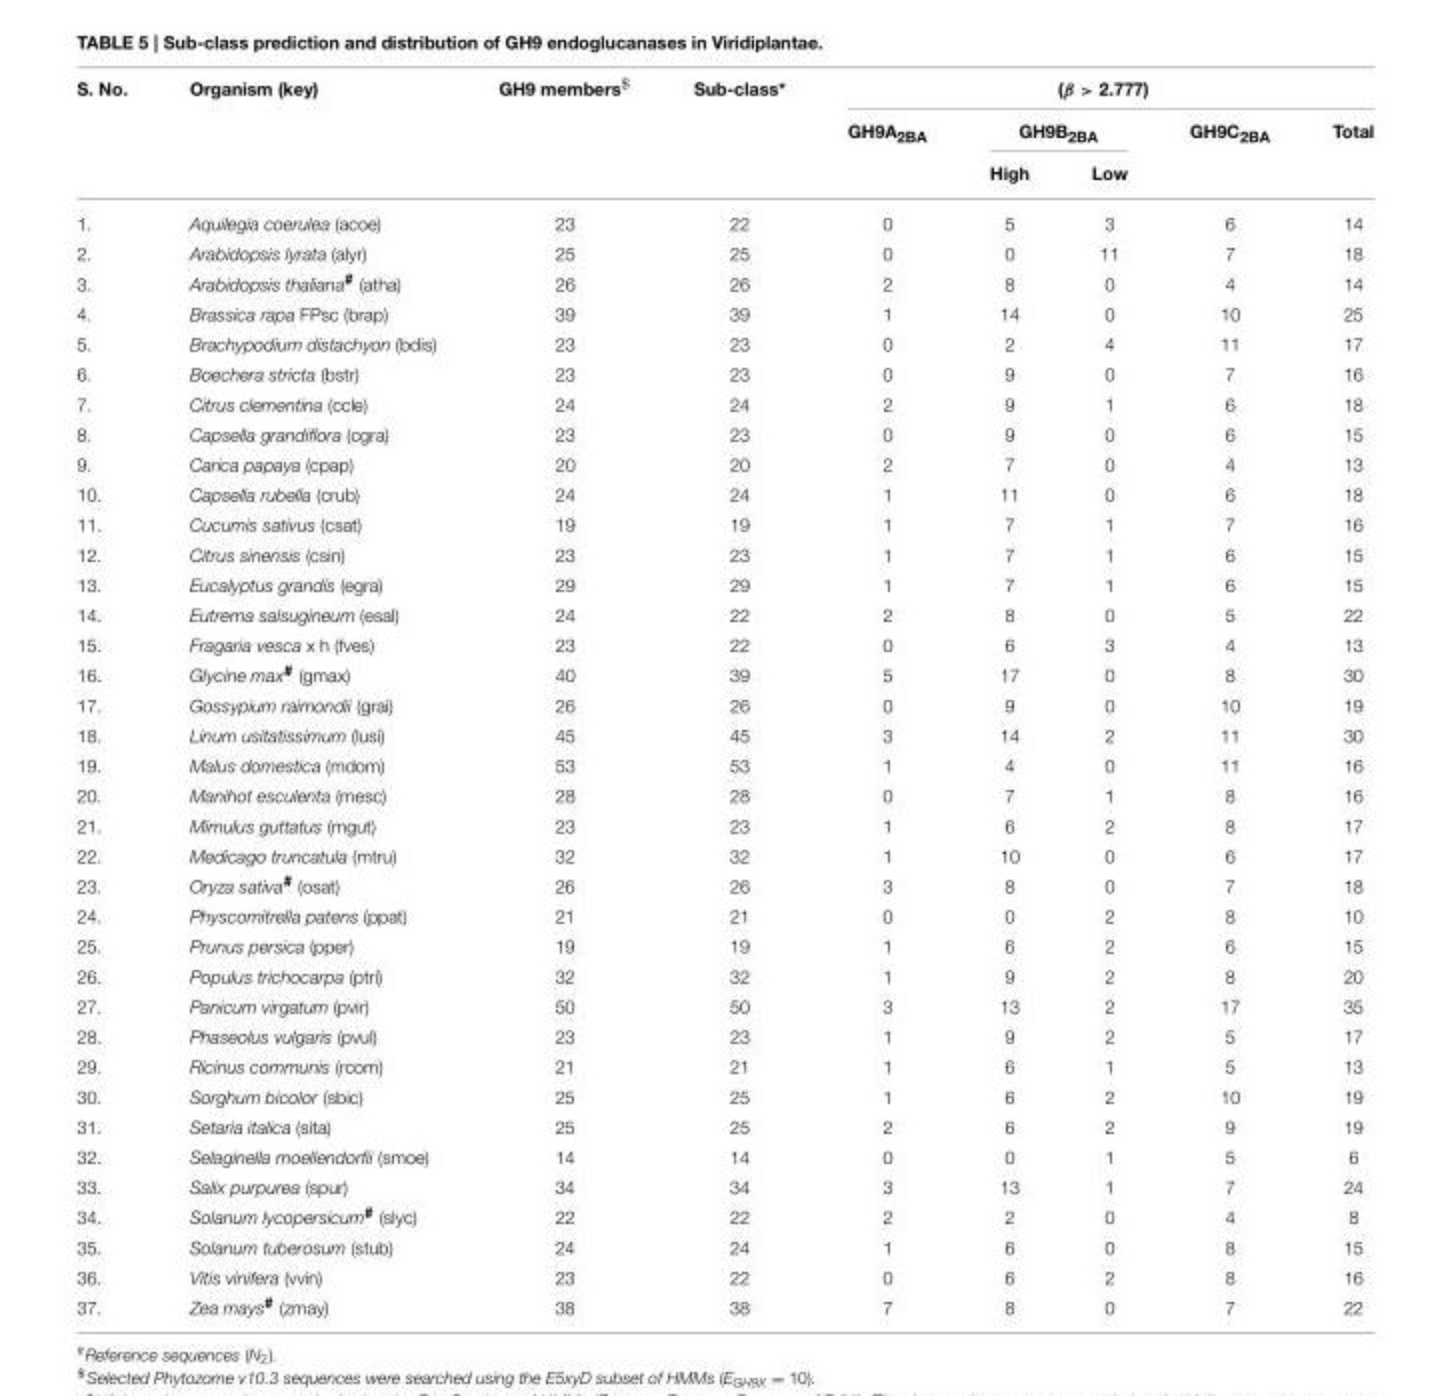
<table><thead><tr><td rowspan="3">S. No.</td><td rowspan="3">Organism (key)</td><td rowspan="3">GH9 members<sup>$</sup></td><td rowspan="3">Sub-class*</td><td colspan="5">(β &gt; 2.777)</td></tr><tr><td rowspan="2">GH9A<sub>2BA</sub></td><td colspan="2">GH9B<sub>2BA</sub></td><td rowspan="2">GH9C<sub>2BA</sub></td><td rowspan="2">Total</td></tr><tr><td>High</td><td>Low</td></tr></thead><tbody><tr><td>1.</td><td>Aquilegia coerulea (acoe)</td><td>23</td><td>22</td><td>0</td><td>5</td><td>3</td><td>6</td><td>14</td></tr><tr><td>2.</td><td>Arabidopsis lyrata (alyr)</td><td>25</td><td>25</td><td>0</td><td>0</td><td>11</td><td>7</td><td>18</td></tr><tr><td>3.</td><td>Arabidopsis thaliana<sup>#</sup> (atha)</td><td>26</td><td>26</td><td>2</td><td>8</td><td>0</td><td>4</td><td>14</td></tr><tr><td>4.</td><td>Brassica rapa FPsc (brap)</td><td>39</td><td>39</td><td>1</td><td>14</td><td>0</td><td>10</td><td>25</td></tr><tr><td>5.</td><td>Brachypodium distachyon (bdis)</td><td>23</td><td>23</td><td>0</td><td>2</td><td>4</td><td>11</td><td>17</td></tr><tr><td>6.</td><td>Boechera stricta (bstr)</td><td>23</td><td>23</td><td>0</td><td>9</td><td>0</td><td>7</td><td>16</td></tr><tr><td>7.</td><td>Citrus clementina (ccle)</td><td>24</td><td>24</td><td>2</td><td>9</td><td>1</td><td>6</td><td>18</td></tr><tr><td>8.</td><td>Capsella grandiflora (cgra)</td><td>23</td><td>23</td><td>0</td><td>9</td><td>0</td><td>6</td><td>15</td></tr><tr><td>9.</td><td>Carica papaya (cpap)</td><td>20</td><td>20</td><td>2</td><td>7</td><td>0</td><td>4</td><td>13</td></tr><tr><td>10.</td><td>Capsella rubella (crub)</td><td>24</td><td>24</td><td>1</td><td>11</td><td>0</td><td>6</td><td>18</td></tr><tr><td>11.</td><td>Cucumis sativus (csat)</td><td>19</td><td>19</td><td>1</td><td>7</td><td>1</td><td>7</td><td>16</td></tr><tr><td>12.</td><td>Citrus sinensis (csin)</td><td>23</td><td>23</td><td>1</td><td>7</td><td>1</td><td>6</td><td>15</td></tr><tr><td>13.</td><td>Eucalyptus grandis (egra)</td><td>29</td><td>29</td><td>1</td><td>7</td><td>1</td><td>6</td><td>15</td></tr><tr><td>14.</td><td>Eutrema salsugineum (esal)</td><td>24</td><td>22</td><td>2</td><td>8</td><td>0</td><td>5</td><td>22</td></tr><tr><td>15.</td><td>Fragaria vesca x h (fves)</td><td>23</td><td>22</td><td>0</td><td>6</td><td>3</td><td>4</td><td>13</td></tr><tr><td>16.</td><td>Glycine max<sup>#</sup> (gmax)</td><td>40</td><td>39</td><td>5</td><td>17</td><td>0</td><td>8</td><td>30</td></tr><tr><td>17.</td><td>Gossypium raimondii (grai)</td><td>26</td><td>26</td><td>0</td><td>9</td><td>0</td><td>10</td><td>19</td></tr><tr><td>18.</td><td>Linum usitatissimum (lusi)</td><td>45</td><td>45</td><td>3</td><td>14</td><td>2</td><td>11</td><td>30</td></tr><tr><td>19.</td><td>Malus domestica (mdom)</td><td>53</td><td>53</td><td>1</td><td>4</td><td>0</td><td>11</td><td>16</td></tr><tr><td>20.</td><td>Manihot esculenta (mesc)</td><td>28</td><td>28</td><td>0</td><td>7</td><td>1</td><td>8</td><td>16</td></tr><tr><td>21.</td><td>Mimulus guttatus (mgut)</td><td>23</td><td>23</td><td>1</td><td>6</td><td>2</td><td>8</td><td>17</td></tr><tr><td>22.</td><td>Medicago truncatula (mtru)</td><td>32</td><td>32</td><td>1</td><td>10</td><td>0</td><td>6</td><td>17</td></tr><tr><td>23.</td><td>Oryza sativa<sup>#</sup> (osat)</td><td>26</td><td>26</td><td>3</td><td>8</td><td>0</td><td>7</td><td>18</td></tr><tr><td>24.</td><td>Physcomitrella patens (ppat)</td><td>21</td><td>21</td><td>0</td><td>0</td><td>2</td><td>8</td><td>10</td></tr><tr><td>25.</td><td>Prunus persica (pper)</td><td>19</td><td>19</td><td>1</td><td>6</td><td>2</td><td>6</td><td>15</td></tr><tr><td>26.</td><td>Populus trichocarpa (ptri)</td><td>32</td><td>32</td><td>1</td><td>9</td><td>2</td><td>8</td><td>20</td></tr><tr><td>27.</td><td>Panicum virgatum (pvir)</td><td>50</td><td>50</td><td>3</td><td>13</td><td>2</td><td>17</td><td>35</td></tr><tr><td>28.</td><td>Phaseolus vulgaris (pvul)</td><td>23</td><td>23</td><td>1</td><td>9</td><td>2</td><td>5</td><td>17</td></tr><tr><td>29.</td><td>Ricinus communis (rcom)</td><td>21</td><td>21</td><td>1</td><td>6</td><td>1</td><td>5</td><td>13</td></tr><tr><td>30.</td><td>Sorghum bicolor (sbic)</td><td>25</td><td>25</td><td>1</td><td>6</td><td>2</td><td>10</td><td>19</td></tr><tr><td>31.</td><td>Setaria italica (sita)</td><td>25</td><td>25</td><td>2</td><td>6</td><td>2</td><td>9</td><td>19</td></tr><tr><td>32.</td><td>Selaginella moellendorfii (smoe)</td><td>14</td><td>14</td><td>0</td><td>0</td><td>1</td><td>5</td><td>6</td></tr><tr><td>33.</td><td>Salix purpurea (spur)</td><td>34</td><td>34</td><td>3</td><td>13</td><td>1</td><td>7</td><td>24</td></tr><tr><td>34.</td><td>Solanum lycopersicum<sup>#</sup> (slyc)</td><td>22</td><td>22</td><td>2</td><td>2</td><td>0</td><td>4</td><td>8</td></tr><tr><td>35.</td><td>Solanum tuberosum (stub)</td><td>24</td><td>24</td><td>1</td><td>6</td><td>0</td><td>8</td><td>15</td></tr><tr><td>36.</td><td>Vitis vinifera (vvin)</td><td>23</td><td>22</td><td>0</td><td>6</td><td>2</td><td>8</td><td>16</td></tr><tr><td>37.</td><td>Zea mays<sup>#</sup> (zmay)</td><td>38</td><td>38</td><td>7</td><td>8</td><td>0</td><td>7</td><td>22</td></tr></tbody></table>